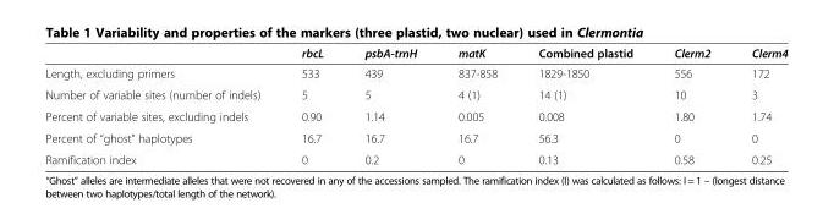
<table><thead><tr><td></td><td>rbcL</td><td>psbA-trnH</td><td>matK</td><td>Combined plastid</td><td>Clerm2</td><td>Clerm4</td></tr></thead><tbody><tr><td>Length, excluding primers</td><td>533</td><td>439</td><td>837-858</td><td>1829-1850</td><td>556</td><td>172</td></tr><tr><td>Number of variable sites (number of indels)</td><td>5</td><td>5</td><td>4 (1)</td><td>14 (1)</td><td>10</td><td>3</td></tr><tr><td>Percent of variable sites, excluding indels</td><td>0.90</td><td>1.14</td><td>0.005</td><td>0.008</td><td>1.80</td><td>1.74</td></tr><tr><td>Percent of “ghost” haplotypes</td><td>16.7</td><td>16.7</td><td>16.7</td><td>56.3</td><td>0</td><td>0</td></tr><tr><td>Ramification index</td><td>0</td><td>0.2</td><td>0</td><td>0.13</td><td>0.58</td><td>0.25</td></tr></tbody></table>